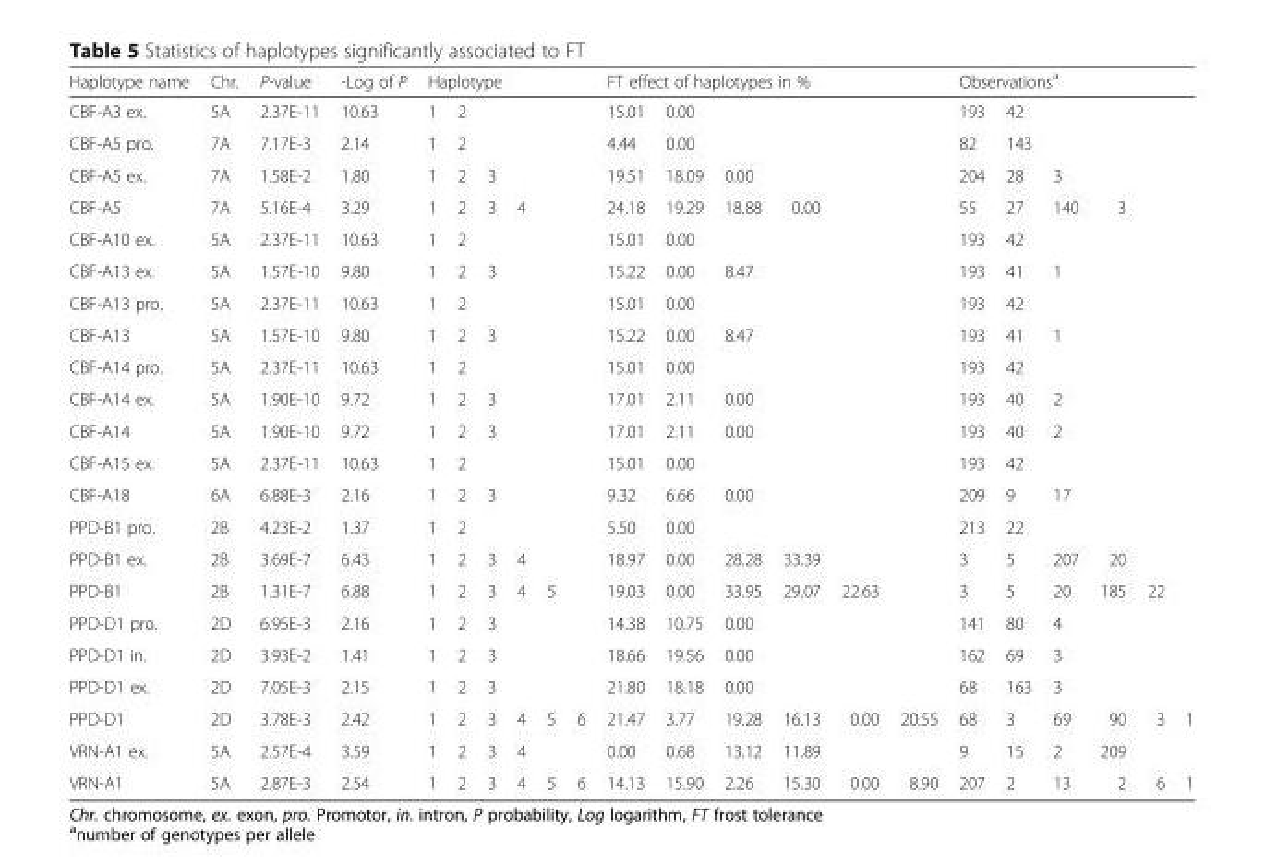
<table><thead><tr><td rowspan="2">Haplotype name CBF-A3 ex.</td><td rowspan="2">Chr. 5A</td><td rowspan="2">P-value 2.37E-11</td><td rowspan="2">-Log of P 10.63</td><td colspan="6">Haplotype</td><td colspan="6">FT effect of haplotypes in %</td><td colspan="6">Observations<sup>a</sup></td></tr><tr><td>1</td><td>2</td><td></td><td></td><td></td><td></td><td>15.01</td><td>0.00</td><td></td><td></td><td></td><td></td><td>193</td><td>42</td><td></td><td></td><td></td><td></td></tr></thead><tbody><tr><td>CBF-A5 pro.</td><td>7A</td><td>7.17E-3</td><td>2.14</td><td>1</td><td>2</td><td></td><td></td><td></td><td></td><td>4.44</td><td>0.00</td><td></td><td></td><td></td><td></td><td>82</td><td>143</td><td></td><td></td><td></td><td></td></tr><tr><td>CBF-A5 ex.</td><td>7A</td><td>1.58E-2</td><td>1.80</td><td>1</td><td>2</td><td>3</td><td></td><td></td><td></td><td>19.51</td><td>18.09</td><td>0.00</td><td></td><td></td><td></td><td>204</td><td>28</td><td>3</td><td></td><td></td><td></td></tr><tr><td>CBF-A5</td><td>7A</td><td>5.16E-4</td><td>3.29</td><td>1</td><td>2</td><td>3</td><td>4</td><td></td><td></td><td>24.18</td><td>19.29</td><td>18.88</td><td>0.00</td><td></td><td></td><td>55</td><td>27</td><td>140</td><td>3</td><td></td><td></td></tr><tr><td>CBF-A10 ex.</td><td>5A</td><td>2.37E-11</td><td>10.63</td><td>1</td><td>2</td><td></td><td></td><td></td><td></td><td>15.01</td><td>0.00</td><td></td><td></td><td></td><td></td><td>193</td><td>42</td><td></td><td></td><td></td><td></td></tr><tr><td>CBF-A13 ex.</td><td>5A</td><td>1.57E-10</td><td>9.80</td><td>1</td><td>2</td><td>3</td><td></td><td></td><td></td><td>15.22</td><td>0.00</td><td>8.47</td><td></td><td></td><td></td><td>193</td><td>41</td><td>1</td><td></td><td></td><td></td></tr><tr><td>CBF-A13 pro.</td><td>5A</td><td>2.37E-11</td><td>10.63</td><td>1</td><td>2</td><td></td><td></td><td></td><td></td><td>15.01</td><td>0.00</td><td></td><td></td><td></td><td></td><td>193</td><td>42</td><td></td><td></td><td></td><td></td></tr><tr><td>CBF-A13</td><td>5A</td><td>1.57E-10</td><td>9.80</td><td>1</td><td>2</td><td>3</td><td></td><td></td><td></td><td>15.22</td><td>0.00</td><td>8.47</td><td></td><td></td><td></td><td>193</td><td>41</td><td>1</td><td></td><td></td><td></td></tr><tr><td>CBF-A14 pro.</td><td>5A</td><td>2.37E-11</td><td>10.63</td><td>1</td><td>2</td><td></td><td></td><td></td><td></td><td>15.01</td><td>0.00</td><td></td><td></td><td></td><td></td><td>193</td><td>42</td><td></td><td></td><td></td><td></td></tr><tr><td>CBF-A14 ex.</td><td>5A</td><td>1.90E-10</td><td>9.72</td><td>1</td><td>2</td><td>3</td><td></td><td></td><td></td><td>17.01</td><td>2.11</td><td>0.00</td><td></td><td></td><td></td><td>193</td><td>40</td><td>2</td><td></td><td></td><td></td></tr><tr><td>CBF-A14</td><td>5A</td><td>1.90E-10</td><td>9.72</td><td>1</td><td>2</td><td>3</td><td></td><td></td><td></td><td>17.01</td><td>2.11</td><td>0.00</td><td></td><td></td><td></td><td>193</td><td>40</td><td>2</td><td></td><td></td><td></td></tr><tr><td>CBF-A15 ex.</td><td>5A</td><td>2.37E-11</td><td>10.63</td><td>1</td><td>2</td><td></td><td></td><td></td><td></td><td>15.01</td><td>0.00</td><td></td><td></td><td></td><td></td><td>193</td><td>42</td><td></td><td></td><td></td><td></td></tr><tr><td>CBF-A18</td><td>6A</td><td>6.88E-3</td><td>2.16</td><td>1</td><td>2</td><td>3</td><td></td><td></td><td></td><td>9.32</td><td>6.66</td><td>0.00</td><td></td><td></td><td></td><td>209</td><td>9</td><td>17</td><td></td><td></td><td></td></tr><tr><td>PPD-B1 pro.</td><td>2B</td><td>4.23E-2</td><td>1.37</td><td>1</td><td>2</td><td></td><td></td><td></td><td></td><td>5.50</td><td>0.00</td><td></td><td></td><td></td><td></td><td>213</td><td>22</td><td></td><td></td><td></td><td></td></tr><tr><td>PPD-B1 ex.</td><td>2B</td><td>3.69E-7</td><td>6.43</td><td>1</td><td>2</td><td>3</td><td>4</td><td></td><td></td><td>18.97</td><td>0.00</td><td>28.28</td><td>33.39</td><td></td><td></td><td>3</td><td>5</td><td>207</td><td>20</td><td></td><td></td></tr><tr><td>PPD-B1</td><td>2B</td><td>1.31E-7</td><td>6.88</td><td>1</td><td>2</td><td>3</td><td>4</td><td>5</td><td></td><td>19.03</td><td>0.00</td><td>33.95</td><td>29.07</td><td>22.63</td><td></td><td>3</td><td>5</td><td>20</td><td>185</td><td>22</td><td></td></tr><tr><td>PPD-D1 pro.</td><td>2D</td><td>6.95E-3</td><td>2.16</td><td>1</td><td>2</td><td>3</td><td></td><td></td><td></td><td>14.38</td><td>10.75</td><td>0.00</td><td></td><td></td><td></td><td>141</td><td>80</td><td>4</td><td></td><td></td><td></td></tr><tr><td>PPD-D1 in.</td><td>2D</td><td>3.93E-2</td><td>1.41</td><td>1</td><td>2</td><td>3</td><td></td><td></td><td></td><td>18.66</td><td>19.56</td><td>0.00</td><td></td><td></td><td></td><td>162</td><td>69</td><td>3</td><td></td><td></td><td></td></tr><tr><td>PPD-D1 ex.</td><td>2D</td><td>7.05E-3</td><td>2.15</td><td>1</td><td>2</td><td>3</td><td></td><td></td><td></td><td>21.80</td><td>18.18</td><td>0.00</td><td></td><td></td><td></td><td>68</td><td>163</td><td>3</td><td></td><td></td><td></td></tr><tr><td>PPD-D1</td><td>2D</td><td>3.78E-3</td><td>2.42</td><td>1</td><td>2</td><td>3</td><td>4</td><td>5</td><td>6</td><td>21.47</td><td>3.77</td><td>19.28</td><td>16.13</td><td>0.00</td><td>20.55</td><td>68</td><td>3</td><td>69</td><td>90</td><td>3</td><td>1</td></tr><tr><td>VRN-A1 ex.</td><td>5A</td><td>2.57E-4</td><td>3.59</td><td>1</td><td>2</td><td>3</td><td>4</td><td></td><td></td><td>0.00</td><td>0.68</td><td>13.12</td><td>11.89</td><td></td><td></td><td>9</td><td>15</td><td>2</td><td>209</td><td></td><td></td></tr><tr><td>VRN-A1</td><td>5A</td><td>2.87E-3</td><td>2.54</td><td>1</td><td>2</td><td>3</td><td>4</td><td>5</td><td>6</td><td>14.13</td><td>15.90</td><td>2.26</td><td>15.30</td><td>0.00</td><td>8.90</td><td>207</td><td>2</td><td>13</td><td>2</td><td>6</td><td>1</td></tr></tbody></table>